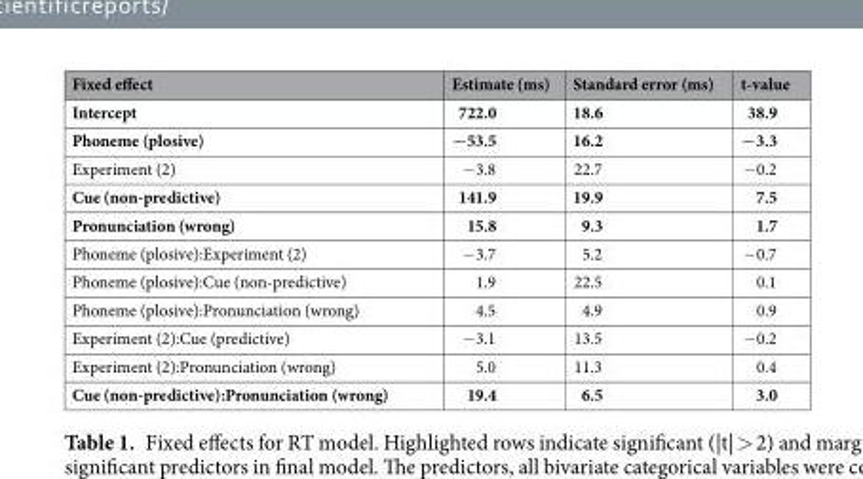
<table><thead><tr><td>Fixed effect</td><td>Estimate (ms)</td><td>Standard error (ms)</td><td>t-value</td></tr></thead><tbody><tr><td>Intercept</td><td>722.0</td><td>18.6</td><td>38.9</td></tr><tr><td>Phoneme (plosive)</td><td>−53.5</td><td>16.2</td><td>−3.3</td></tr><tr><td>Experiment (2)</td><td>−3.8</td><td>22.7</td><td>−0.2</td></tr><tr><td>Cue (non-predictive)</td><td>141.9</td><td>19.9</td><td>7.5</td></tr><tr><td>Pronunciation (wrong)</td><td>15.8</td><td>9.3</td><td>1.7</td></tr><tr><td>Phoneme (plosive):Experiment (2)</td><td>−3.7</td><td>5.2</td><td>−0.7</td></tr><tr><td>Phoneme (plosive):Cue (non-predictive)</td><td>1.9</td><td>22.5</td><td>0.1</td></tr><tr><td>Phoneme (plosive):Pronunciation (wrong)</td><td>4.5</td><td>4.9</td><td>0.9</td></tr><tr><td>Experiment (2):Cue (predictive)</td><td>−3.1</td><td>13.5</td><td>−0.2</td></tr><tr><td>Experiment (2):Pronunciation (wrong)</td><td>5.0</td><td>11.3</td><td>0.4</td></tr><tr><td>Cue (non-predictive):Pronunciation (wrong)</td><td>19.4</td><td>6.5</td><td>3.0</td></tr></tbody></table>